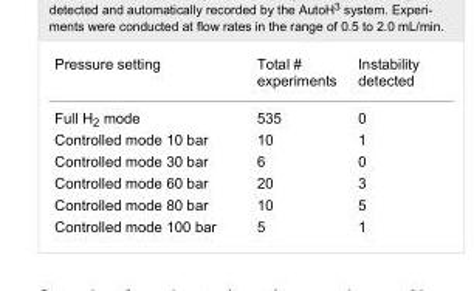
<table><tbody><tr><td>Pressure setting</td><td>Total # experiments</td><td>Instability detected</td></tr><tr><td>Full H<sub>2</sub> mode</td><td>535</td><td>0</td></tr><tr><td>Controlled mode 10 bar</td><td>10</td><td>1</td></tr><tr><td>Controlled mode 30 bar</td><td>6</td><td>0</td></tr><tr><td>Controlled mode 60 bar</td><td>20</td><td>3</td></tr><tr><td>Controlled mode 80 bar</td><td>10</td><td>5</td></tr><tr><td>Controlled mode 100 bar</td><td>5</td><td>1</td></tr></tbody></table>